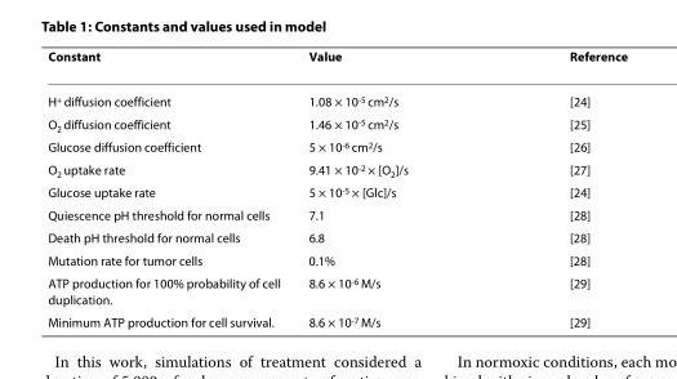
<table><thead><tr><td>Constant</td><td>Value</td><td>Reference</td></tr></thead><tbody><tr><td>H<sup>+</sup> diffusion coefficient</td><td>1.08 × 10<sup>-5</sup> cm<sup>2</sup>/s</td><td>[24]</td></tr><tr><td>O<sub>2</sub> diffusion coefficient</td><td>1.46 × 10<sup>-5</sup> cm<sup>2</sup>/s</td><td>[25]</td></tr><tr><td>Glucose diffusion coefficient</td><td>5 × 10<sup>-6</sup> cm<sup>2</sup>/s</td><td>[26]</td></tr><tr><td>O<sub>2</sub> uptake rate</td><td>9.41 × 10<sup>-2</sup> × [O<sub>2</sub>]/s</td><td>[27]</td></tr><tr><td>Glucose uptake rate</td><td>5 × 10<sup>-5</sup> × [Glc]/s</td><td>[24]</td></tr><tr><td>Quiescence pH threshold for normal cells</td><td>7.1</td><td>[28]</td></tr><tr><td>Death pH threshold for normal cells</td><td>6.8</td><td>[28]</td></tr><tr><td>Mutation rate for tumor cells</td><td>0.1%</td><td>[28]</td></tr><tr><td>ATP production for 100% probability of cell duplication.</td><td>8.6 × 10<sup>-6</sup> M/s</td><td>[29]</td></tr><tr><td>Minimum ATP production for cell survival.</td><td>8.6 × 10<sup>-7</sup> M/s</td><td>[29]</td></tr></tbody></table>